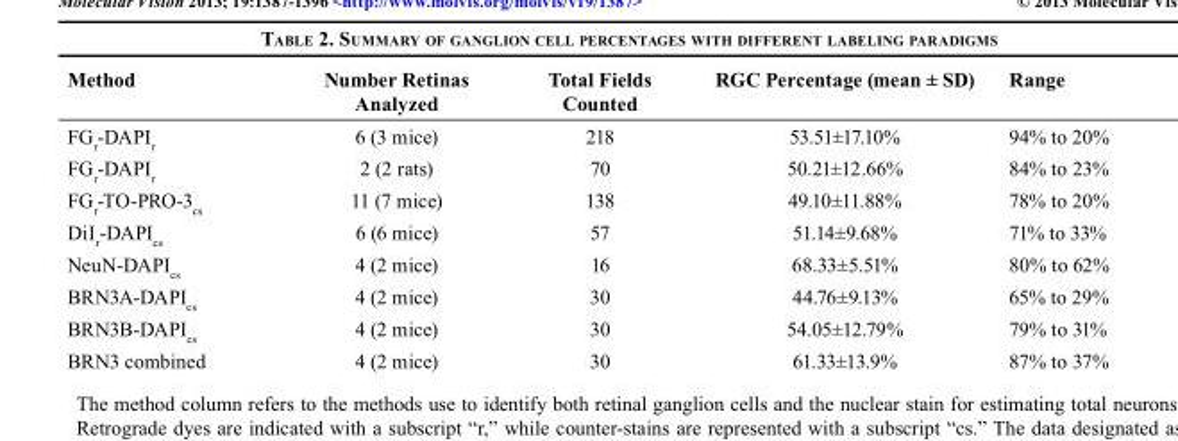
<table><thead><tr><td>Method</td><td>Number Retinas Analyzed</td><td>Total Fields Counted</td><td>RGC Percentage (mean ± SD)</td><td>Range</td></tr></thead><tbody><tr><td>FG<sub>r</sub>-DAPI<sub>r</sub></td><td>6 (3 mice)</td><td>218</td><td>53.51±17.10%</td><td>94% to 20%</td></tr><tr><td>FG<sub>r</sub>-DAPI<sub>r</sub></td><td>2 (2 rats)</td><td>70</td><td>50.21±12.66%</td><td>84% to 23%</td></tr><tr><td>FG<sub>r</sub>-TO-PRO-3<sub>cs</sub></td><td>11 (7 mice)</td><td>138</td><td>49.10±11.88%</td><td>78% to 20%</td></tr><tr><td>DiI<sub>r</sub>-DAPI<sub>cs</sub></td><td>6 (6 mice)</td><td>57</td><td>51.14±9.68%</td><td>71% to 33%</td></tr><tr><td>NeuN-DAPI<sub>cs</sub></td><td>4 (2 mice)</td><td>16</td><td>68.33±5.51%</td><td>80% to 62%</td></tr><tr><td>BRN3A-DAPI<sub>cs</sub></td><td>4 (2 mice)</td><td>30</td><td>44.76±9.13%</td><td>65% to 29%</td></tr><tr><td>BRN3B-DAPI<sub>cs</sub></td><td>4 (2 mice)</td><td>30</td><td>54.05±12.79%</td><td>79% to 31%</td></tr><tr><td>BRN3 combined</td><td>4 (2 mice)</td><td>30</td><td>61.33±13.9%</td><td>87% to 37%</td></tr></tbody></table>